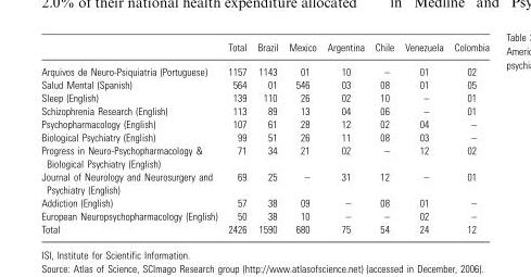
<table><thead><tr><td></td><td>Total</td><td>Brazil</td><td>Mexico</td><td>Argentina</td><td>Chile</td><td>Venezuela</td><td>Colombia</td></tr></thead><tbody><tr><td>Arquivos de Neuro-Psiquiatria (Portuguese)</td><td>1157</td><td>1143</td><td>01</td><td>10</td><td>–</td><td>01</td><td>02</td></tr><tr><td>Salud Mental (Spanish)</td><td>564</td><td>01</td><td>546</td><td>03</td><td>08</td><td>01</td><td>05</td></tr><tr><td>Sleep (English)</td><td>139</td><td>110</td><td>26</td><td>02</td><td>10</td><td>–</td><td>01</td></tr><tr><td>Schizophrenia Research (English)</td><td>113</td><td>89</td><td>13</td><td>04</td><td>06</td><td>–</td><td>01</td></tr><tr><td>Psychopharmacology (English)</td><td>107</td><td>61</td><td>28</td><td>12</td><td>02</td><td>04</td><td>–</td></tr><tr><td>Biological Psychiatry (English)</td><td>99</td><td>51</td><td>26</td><td>11</td><td>08</td><td>03</td><td>–</td></tr><tr><td>Progress in Neuro-Psychopharmacology &amp; Biological Psychiatry (English)</td><td>71</td><td>34</td><td>21</td><td>02</td><td>–</td><td>12</td><td>02</td></tr><tr><td>Journal of Neurology and Neurosurgery and Psychiatry (English)</td><td>69</td><td>25</td><td>–</td><td>31</td><td>12</td><td>–</td><td>01</td></tr><tr><td>Addiction (English)</td><td>57</td><td>38</td><td>09</td><td>–</td><td>08</td><td>01</td><td>–</td></tr><tr><td>European Neuropsychopharmacology (English)</td><td>50</td><td>38</td><td>10</td><td>–</td><td>–</td><td>02</td><td>–</td></tr><tr><td>Total</td><td>2426</td><td>1590</td><td>680</td><td>75</td><td>54</td><td>24</td><td>12</td></tr></tbody></table>